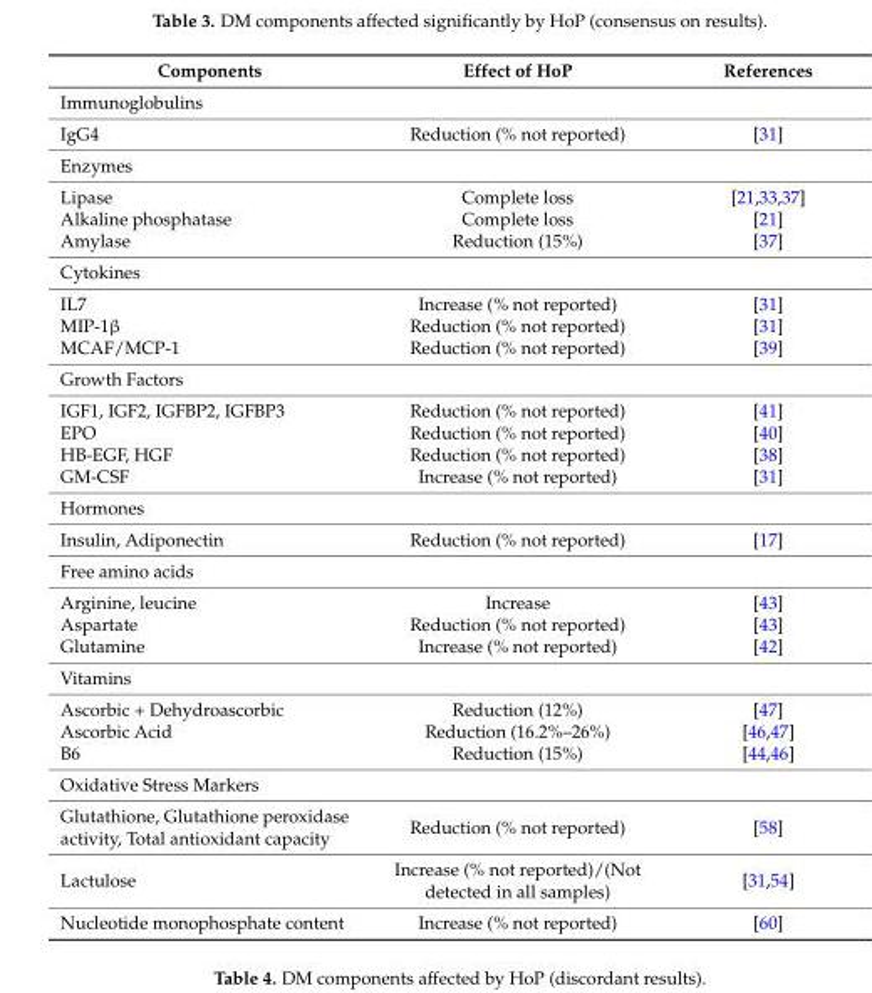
<table><thead><tr><td>Components</td><td>Effect of HoP</td><td>References</td></tr></thead><tbody><tr><td colspan="3">Immunoglobulins</td></tr><tr><td>IgG4</td><td>Reduction (% not reported)</td><td>[31]</td></tr><tr><td colspan="3">Enzymes</td></tr><tr><td>Lipase</td><td>Complete loss</td><td>[21,33,37]</td></tr><tr><td>Alkaline phosphatase</td><td>Complete loss</td><td>[21]</td></tr><tr><td>Amylase</td><td>Reduction (15%)</td><td>[37]</td></tr><tr><td colspan="3">Cytokines</td></tr><tr><td>IL7</td><td>Increase (% not reported)</td><td>[31]</td></tr><tr><td>MIP-1β</td><td>Reduction (% not reported)</td><td>[31]</td></tr><tr><td>MCAF/MCP-1</td><td>Reduction (% not reported)</td><td>[39]</td></tr><tr><td colspan="3">Growth Factors</td></tr><tr><td>IGF1, IGF2, IGFBP2, IGFBP3</td><td>Reduction (% not reported)</td><td>[41]</td></tr><tr><td>EPO</td><td>Reduction (% not reported)</td><td>[40]</td></tr><tr><td>HB-EGF, HGF</td><td>Reduction (% not reported)</td><td>[38]</td></tr><tr><td>GM-CSF</td><td>Increase (% not reported)</td><td>[31]</td></tr><tr><td colspan="3">Hormones</td></tr><tr><td>Insulin, Adiponectin</td><td>Reduction (% not reported)</td><td>[17]</td></tr><tr><td colspan="3">Free amino acids</td></tr><tr><td>Arginine, leucine</td><td>Increase</td><td>[43]</td></tr><tr><td>Aspartate</td><td>Reduction (% not reported)</td><td>[43]</td></tr><tr><td>Glutamine</td><td>Increase (% not reported)</td><td>[42]</td></tr><tr><td colspan="3">Vitamins</td></tr><tr><td>Ascorbic + Dehydroascorbic</td><td>Reduction (12%)</td><td>[47]</td></tr><tr><td>Ascorbic Acid</td><td>Reduction (16.2%–26%)</td><td>[46,47]</td></tr><tr><td>B6</td><td>Reduction (15%)</td><td>[44,46]</td></tr><tr><td colspan="3">Oxidative Stress Markers</td></tr><tr><td>Glutathione, Glutathione peroxidase activity, Total antioxidant capacity</td><td>Reduction (% not reported)</td><td>[58]</td></tr><tr><td>Lactulose</td><td>Increase (% not reported)/(Not detected in all samples)</td><td>[31,54]</td></tr><tr><td>Nucleotide monophosphate content</td><td>Increase (% not reported)</td><td>[60]</td></tr></tbody></table>